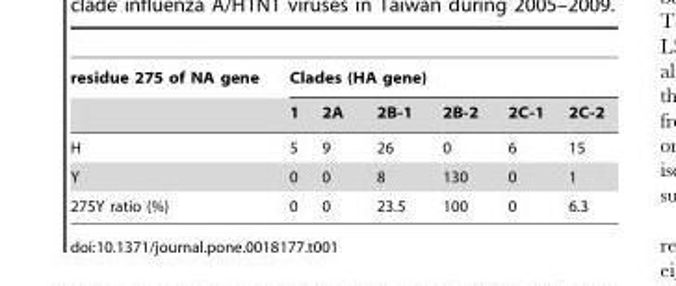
<table><thead><tr><td rowspan="2">residue 275 of NA gene</td><td colspan="6">Clades (HA gene)</td></tr><tr><td>1</td><td>2A</td><td>2B-1</td><td>2B-2</td><td>2C-1</td><td>2C-2</td></tr></thead><tbody><tr><td>H</td><td>5</td><td>9</td><td>26</td><td>0</td><td>6</td><td>15</td></tr><tr><td>Y</td><td>0</td><td>0</td><td>8</td><td>130</td><td>0</td><td>1</td></tr><tr><td>275Y ratio (%)</td><td>0</td><td>0</td><td>23.5</td><td>100</td><td>0</td><td>6.3</td></tr></tbody></table>